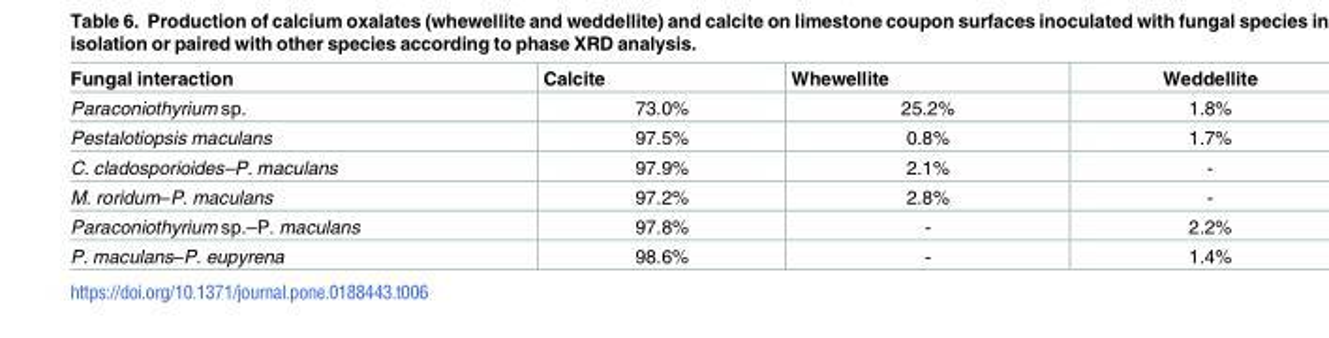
<table><thead><tr><td>Fungal interaction</td><td>Calcite</td><td>Whewellite</td><td>Weddellite</td></tr></thead><tbody><tr><td>Paraconiothyrium sp.</td><td>73.0%</td><td>25.2%</td><td>1.8%</td></tr><tr><td>Pestalotiopsis maculans</td><td>97.5%</td><td>0.8%</td><td>1.7%</td></tr><tr><td>C. cladosporioides–P. maculans</td><td>97.9%</td><td>2.1%</td><td>-</td></tr><tr><td>M. roridum–P. maculans</td><td>97.2%</td><td>2.8%</td><td>-</td></tr><tr><td>Paraconiothyrium sp.–P. maculans</td><td>97.8%</td><td>-</td><td>2.2%</td></tr><tr><td>P. maculans–P. eupyrena</td><td>98.6%</td><td>-</td><td>1.4%</td></tr></tbody></table>